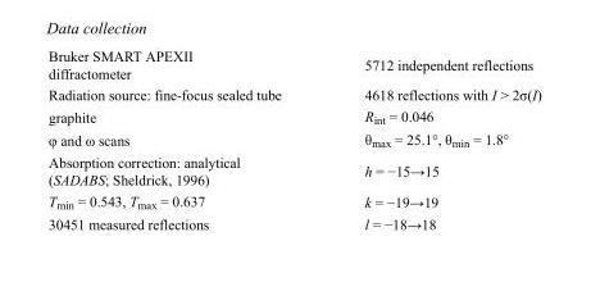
<table><tbody><tr><td>Bruker SMART APEXII diffractometer</td><td>5712 independent reflections</td></tr><tr><td>Radiation source: fine-focus sealed tube</td><td>4618 reflections with I &gt; 2σ(I)</td></tr><tr><td>graphite</td><td>R<sub>int</sub> = 0.046</td></tr><tr><td>φ and ω scans</td><td>θ<sub>max</sub> = 25.1°, θ<sub>min</sub> = 1.8°</td></tr><tr><td>Absorption correction: analytical (SADABS; Sheldrick, 1996)</td><td>h = −15→15</td></tr><tr><td>T<sub>min</sub> = 0.543, T<sub>max</sub> = 0.637</td><td>k = −19→19</td></tr><tr><td>30451 measured reflections</td><td>l = −18→18</td></tr></tbody></table>